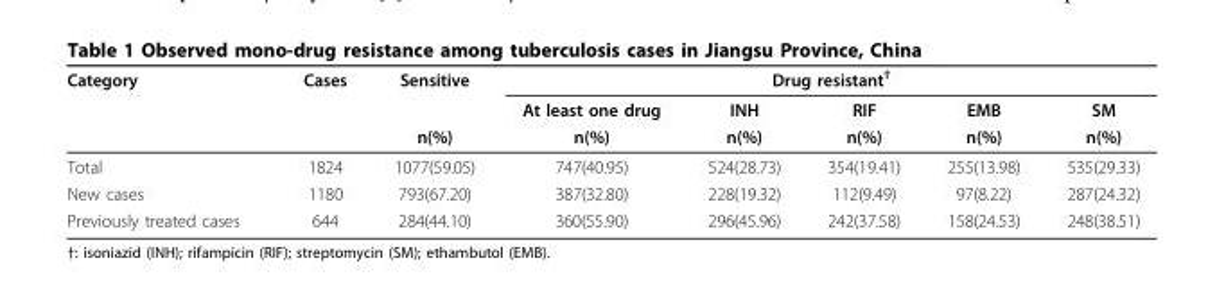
<table><thead><tr><td rowspan="3">Category</td><td rowspan="3">Cases</td><td rowspan="3">Sensitive n(%)</td><td colspan="5">Drug resistant<sup>†</sup></td></tr><tr><td rowspan="2">At least one drug n(%)</td><td rowspan="2">INH n(%)</td><td rowspan="2">RIF n(%)</td><td rowspan="2">EMB n(%)</td><td rowspan="2">SM n(%)</td></tr><tr></tr></thead><tbody><tr><td>Total</td><td>1824</td><td>1077(59.05)</td><td>747(40.95)</td><td>524(28.73)</td><td>354(19.41)</td><td>255(13.98)</td><td>535(29.33)</td></tr><tr><td>New cases</td><td>1180</td><td>793(67.20)</td><td>387(32.80)</td><td>228(19.32)</td><td>112(9.49)</td><td>97(8.22)</td><td>287(24.32)</td></tr><tr><td>Previously treated cases</td><td>644</td><td>284(44.10)</td><td>360(55.90)</td><td>296(45.96)</td><td>242(37.58)</td><td>158(24.53)</td><td>248(38.51)</td></tr></tbody></table>